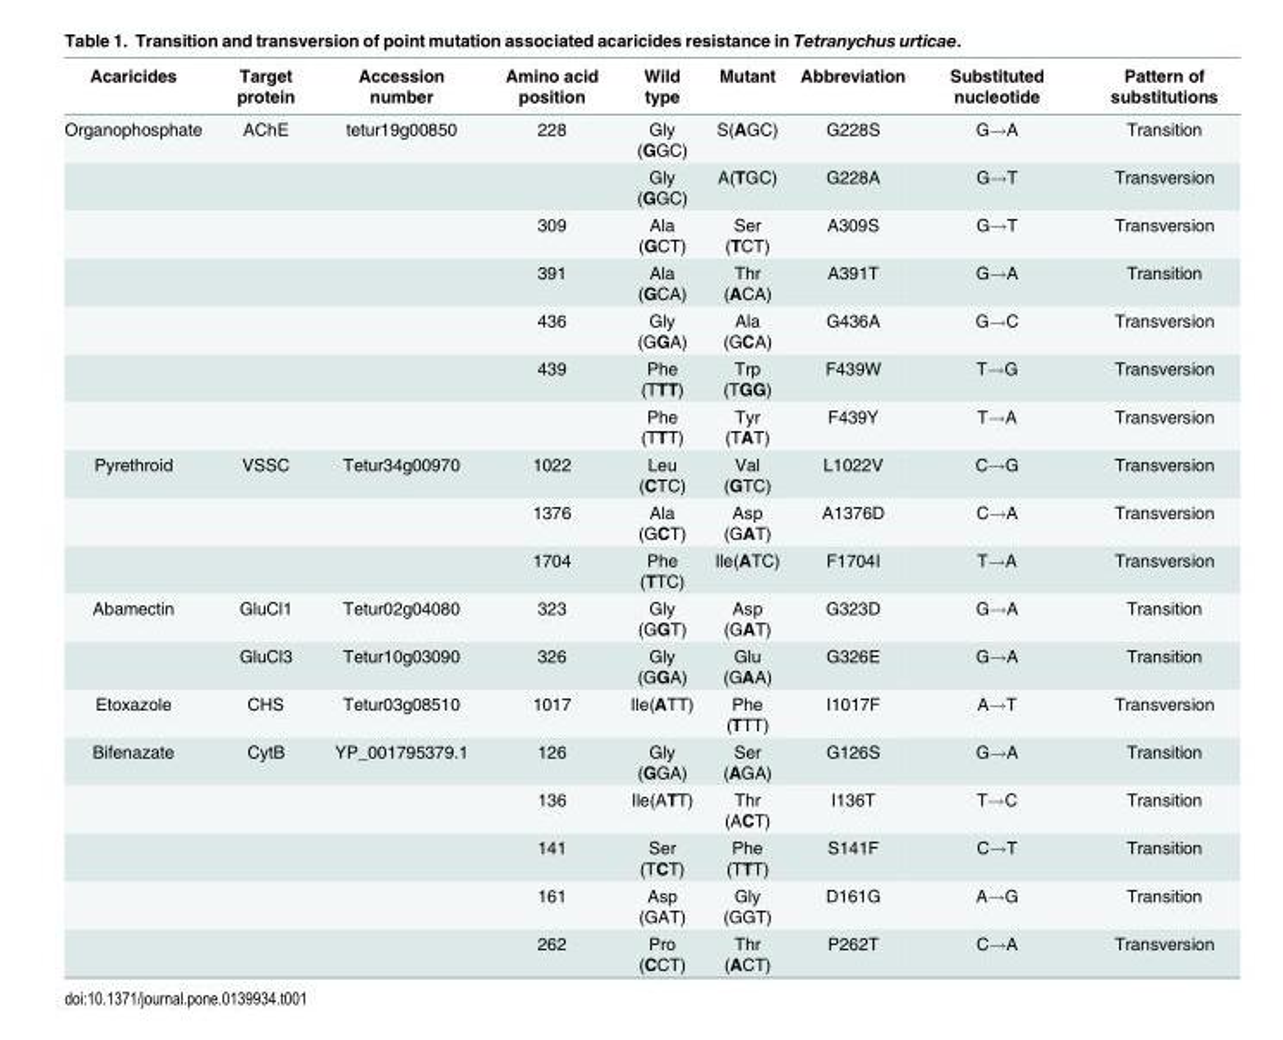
<table><thead><tr><td>Acaricides</td><td>Target protein</td><td>Accession number</td><td>Amino acid position</td><td>Wild type</td><td>Mutant</td><td>Abbreviation</td><td>Substituted nucleotide</td><td>Pattern of substitutions</td></tr></thead><tbody><tr><td rowspan="7">Organophosphate</td><td>AChE</td><td>tetur19g00850</td><td>228</td><td>Gly (GGC)</td><td>S(AGC)</td><td>G228S</td><td>G→A</td><td>Transition</td></tr><tr><td></td><td></td><td></td><td>Gly (GGC)</td><td>A(TGC)</td><td>G228A</td><td>G→T</td><td>Transversion</td></tr><tr><td></td><td></td><td>309</td><td>Ala (GCT)</td><td>Ser (TCT)</td><td>A309S</td><td>G→T</td><td>Transversion</td></tr><tr><td></td><td></td><td>391</td><td>Ala (GCA)</td><td>Thr (ACA)</td><td>A391T</td><td>G→A</td><td>Transition</td></tr><tr><td></td><td></td><td>436</td><td>Gly (GGA)</td><td>Ala (GCA)</td><td>G436A</td><td>G→C</td><td>Transversion</td></tr><tr><td></td><td></td><td>439</td><td>Phe (TTT)</td><td>Trp (TGG)</td><td>F439W</td><td>T→G</td><td>Transversion</td></tr><tr><td></td><td></td><td></td><td>Phe (TTT)</td><td>Tyr (TAT)</td><td>F439Y</td><td>T→A</td><td>Transversion</td></tr><tr><td rowspan="3">Pyrethroid</td><td>VSSC</td><td>Tetur34g00970</td><td>1022</td><td>Leu (CTC)</td><td>Val (GTC)</td><td>L1022V</td><td>C→G</td><td>Transversion</td></tr><tr><td></td><td></td><td>1376</td><td>Ala (GCT)</td><td>Asp (GAT)</td><td>A1376D</td><td>C→A</td><td>Transversion</td></tr><tr><td></td><td></td><td>1704</td><td>Phe (TTC)</td><td>Ile(ATC)</td><td>F1704I</td><td>T→A</td><td>Transversion</td></tr><tr><td rowspan="2">Abamectin</td><td>GluCl1</td><td>Tetur02g04080</td><td>323</td><td>Gly (GGT)</td><td>Asp (GAT)</td><td>G323D</td><td>G→A</td><td>Transition</td></tr><tr><td>GluCl3</td><td>Tetur10g03090</td><td>326</td><td>Gly (GGA)</td><td>Glu (GAA)</td><td>G326E</td><td>G→A</td><td>Transition</td></tr><tr><td>Etoxazole</td><td>CHS</td><td>Tetur03g08510</td><td>1017</td><td>Ile(ATT)</td><td>Phe (TTT)</td><td>I1017F</td><td>A→T</td><td>Transversion</td></tr><tr><td rowspan="5">Bifenazate</td><td>CytB</td><td>YP_001795379.1</td><td>126</td><td>Gly (GGA)</td><td>Ser (AGA)</td><td>G126S</td><td>G→A</td><td>Transition</td></tr><tr><td></td><td></td><td>136</td><td>Ile(ATT)</td><td>Thr (ACT)</td><td>I136T</td><td>T→C</td><td>Transition</td></tr><tr><td></td><td></td><td>141</td><td>Ser (TCT)</td><td>Phe (TTT)</td><td>S141F</td><td>C→T</td><td>Transition</td></tr><tr><td></td><td></td><td>161</td><td>Asp (GAT)</td><td>Gly (GGT)</td><td>D161G</td><td>A→G</td><td>Transition</td></tr><tr><td></td><td></td><td>262</td><td>Pro (CCT)</td><td>Thr (ACT)</td><td>P262T</td><td>C→A</td><td>Transversion</td></tr></tbody></table>